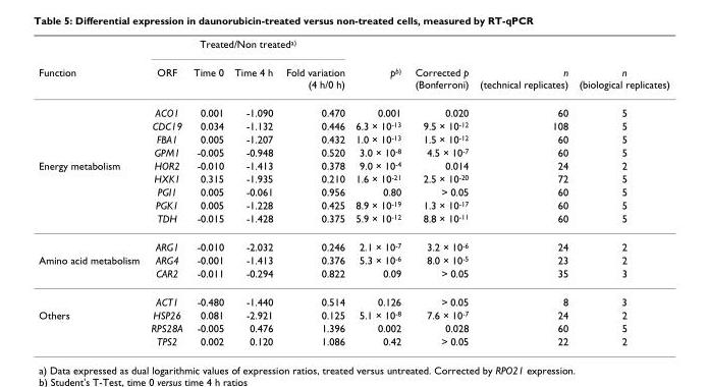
<table><thead><tr><td rowspan="2">Function</td><td colspan="4">Treated/Non treated<sup>a)</sup></td><td rowspan="2">p<sup>b)</sup></td><td rowspan="2">Corrected p (Bonferroni)</td><td rowspan="2">n (technical replicates)</td><td rowspan="2">n (biological replicates)</td></tr><tr><td>ORF</td><td>Time 0</td><td>Time 4 h</td><td>Fold variation (4 h/0 h)</td></tr></thead><tbody><tr><td></td><td>ACO1</td><td>0.001</td><td>-1.090</td><td>0.470</td><td>0.001</td><td>0.020</td><td>60</td><td>5</td></tr><tr><td></td><td>CDC19</td><td>0.034</td><td>-1.132</td><td>0.446</td><td>6.3 × 10<sup>-13</sup></td><td>9.5 × 10<sup>-12</sup></td><td>108</td><td>5</td></tr><tr><td></td><td>FBA1</td><td>0.005</td><td>-1.207</td><td>0.432</td><td>1.0 × 10<sup>-13</sup></td><td>1.5 × 10<sup>-12</sup></td><td>60</td><td>5</td></tr><tr><td></td><td>GPM1</td><td>-0.005</td><td>-0.948</td><td>0.520</td><td>3.0 × 10<sup>-8</sup></td><td>4.5 × 10<sup>-7</sup></td><td>60</td><td>5</td></tr><tr><td rowspan="6">Energy metabolism</td><td>HOR2</td><td>-0.010</td><td>-1.413</td><td>0.378</td><td>9.0 × 10<sup>-4</sup></td><td>0.014</td><td>24</td><td>2</td></tr><tr><td>HXK1</td><td>0.315</td><td>-1.935</td><td>0.210</td><td>1.6 × 10<sup>-21</sup></td><td>2.5 × 10<sup>-20</sup></td><td>72</td><td>5</td></tr><tr><td>PGI1</td><td>0.005</td><td>-0.061</td><td>0.956</td><td>0.80</td><td>&gt; 0.05</td><td>60</td><td>5</td></tr><tr><td>PGK1</td><td>0.005</td><td>-1.228</td><td>0.425</td><td>8.9 × 10<sup>-19</sup></td><td>1.3 × 10<sup>-17</sup></td><td>60</td><td>5</td></tr><tr><td>TDH</td><td>-0.015</td><td>-1.428</td><td>0.375</td><td>5.9 × 10<sup>-12</sup></td><td>8.8 × 10<sup>-11</sup></td><td>60</td><td>5</td></tr><tr><td>ARG1</td><td>-0.010</td><td>-2.032</td><td>0.246</td><td>2.1 × 10<sup>-7</sup></td><td>3.2 × 10<sup>-6</sup></td><td>24</td><td>2</td></tr><tr><td rowspan="3">Amino acid metabolism</td><td>ARG4</td><td>-0.001</td><td>-1.413</td><td>0.376</td><td>5.3 × 10<sup>-6</sup></td><td>8.0 × 10<sup>-5</sup></td><td>23</td><td>2</td></tr><tr><td>CAR2</td><td>-0.011</td><td>-0.294</td><td>0.822</td><td>0.09</td><td>&gt; 0.05</td><td>35</td><td>3</td></tr><tr><td>ACT1</td><td>-0.480</td><td>-1.440</td><td>0.514</td><td>0.126</td><td>&gt; 0.05</td><td>8</td><td>3</td></tr><tr><td rowspan="3">Others</td><td>HSP26</td><td>0.081</td><td>-2.921</td><td>0.125</td><td>5.1 × 10<sup>-8</sup></td><td>7.6 × 10<sup>-7</sup></td><td>24</td><td>2</td></tr><tr><td>RPS28A</td><td>-0.005</td><td>0.476</td><td>1.396</td><td>0.002</td><td>0.028</td><td>60</td><td>5</td></tr><tr><td>TPS2</td><td>0.002</td><td>0.120</td><td>1.086</td><td>0.42</td><td>&gt; 0.05</td><td>22</td><td>2</td></tr></tbody></table>